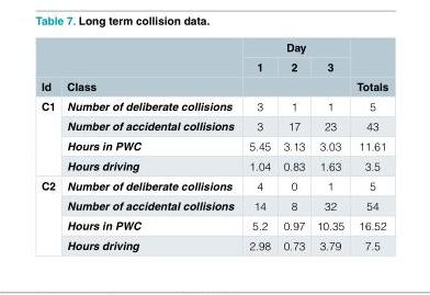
<table><thead><tr><td rowspan="3">Id</td><td rowspan="3">Class</td><td colspan="3">Day</td><td rowspan="3">Totals</td></tr><tr><td rowspan="2">1</td><td rowspan="2">2</td><td rowspan="2">3</td></tr><tr></tr></thead><tbody><tr><td rowspan="4">C1</td><td>Number of deliberate collisions</td><td>3</td><td>1</td><td>1</td><td>5</td></tr><tr><td>Number of accidental collisions</td><td>3</td><td>17</td><td>23</td><td>43</td></tr><tr><td>Hours in PWC</td><td>5.45</td><td>3.13</td><td>3.03</td><td>11.61</td></tr><tr><td>Hours driving</td><td>1.04</td><td>0.83</td><td>1.63</td><td>3.5</td></tr><tr><td rowspan="4">C2</td><td>Number of deliberate collisions</td><td>4</td><td>0</td><td>1</td><td>5</td></tr><tr><td>Number of accidental collisions</td><td>14</td><td>8</td><td>32</td><td>54</td></tr><tr><td>Hours in PWC</td><td>5.2</td><td>0.97</td><td>10.35</td><td>16.52</td></tr><tr><td>Hours driving</td><td>2.98</td><td>0.73</td><td>3.79</td><td>7.5</td></tr></tbody></table>